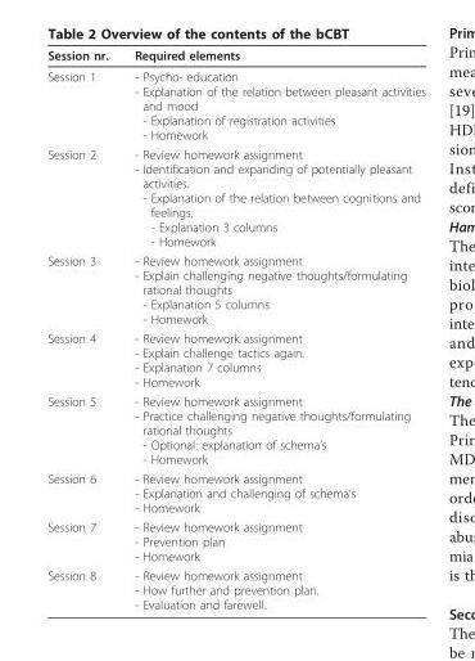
<table><thead><tr><td>Session nr.</td><td>Required elements</td></tr></thead><tbody><tr><td>Session 1</td><td>- Psycho- education - Explanation of the relation between pleasant activities and mood - Explanation of registration activities - Homework</td></tr><tr><td>Session 2</td><td>- Review homework assignment - Identification and expanding of potentially pleasant activities. - Explanation of the relation between cognitions and feelings. - Explanation 3 columns - Homework</td></tr><tr><td>Session 3</td><td>- Review homework assignment - Explain challenging negative thoughts/formulating rational thoughts - Explanation 5 columns - Homework</td></tr><tr><td>Session 4</td><td>- Review homework assignment - Explain challenge tactics again. - Explanation 7 columns - Homework</td></tr><tr><td>Session 5</td><td>- Review homework assignment - Practice challenging negative thoughts/formulating rational thoughts - Optional: explanation of schema’s - Homework</td></tr><tr><td>Session 6</td><td>- Review homework assignment - Explanation and challenging of schema’s - Homework</td></tr><tr><td>Session 7</td><td>- Review homework assignment - Prevention plan - Homework</td></tr><tr><td>Session 8</td><td>- Review homework assignment - How further and prevention plan. - Evaluation and farewell.</td></tr></tbody></table>